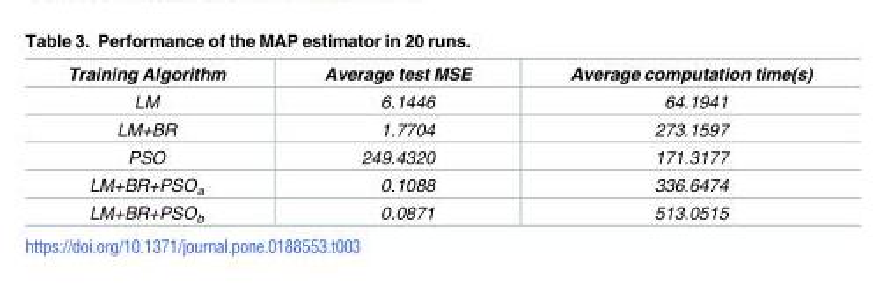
<table><thead><tr><td>Training Algorithm</td><td>Average test MSE</td><td>Average computation time(s)</td></tr></thead><tbody><tr><td>LM</td><td>6.1446</td><td>64.1941</td></tr><tr><td>LM+BR</td><td>1.7704</td><td>273.1597</td></tr><tr><td>PSO</td><td>249.4320</td><td>171.3177</td></tr><tr><td>LM+BR+PSO<sub>a</sub></td><td>0.1088</td><td>336.6474</td></tr><tr><td>LM+BR+PSO<sub>b</sub></td><td>0.0871</td><td>513.0515</td></tr></tbody></table>